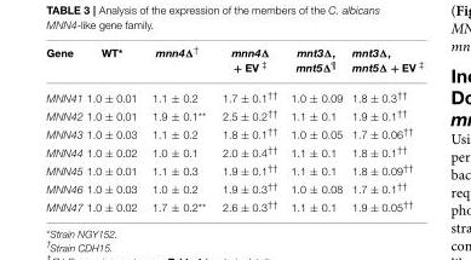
<table><thead><tr><td>Gene</td><td>WT*</td><td>mnn4Δ<sup>†</sup></td><td>mnn4Δ + EV <sup>‡</sup></td><td>mnt3Δ, mnt5Δ<sup>¶</sup></td><td>mnt3Δ, mnt5Δ + EV <sup>‡</sup></td></tr></thead><tbody><tr><td>MNN41</td><td>1.0 ± 0.01</td><td>1.1 ± 0.2</td><td>1.7 ± 0.1<sup>††</sup></td><td>1.0 ± 0.09</td><td>1.8 ± 0.3<sup>††</sup></td></tr><tr><td>MNN42</td><td>1.0 ± 0.01</td><td>1.9 ± 0.1**</td><td>2.5 ± 0.2<sup>††</sup></td><td>1.1 ± 0.1</td><td>1.9 ± 0.1<sup>††</sup></td></tr><tr><td>MNN43</td><td>1.0 ± 0.03</td><td>1.1 ± 0.2</td><td>1.8 ± 0.1<sup>††</sup></td><td>1.0 ± 0.05</td><td>1.7 ± 0.06<sup>††</sup></td></tr><tr><td>MNN44</td><td>1.0 ± 0.02</td><td>1.0 ± 0.1</td><td>2.0 ± 0.4<sup>††</sup></td><td>1.1 ± 0.1</td><td>1.8 ± 0.1<sup>††</sup></td></tr><tr><td>MNN45</td><td>1.0 ± 0.01</td><td>1.1 ± 0.3</td><td>1.9 ± 0.1<sup>††</sup></td><td>1.1 ± 0.1</td><td>1.8 ± 0.09<sup>††</sup></td></tr><tr><td>MNN46</td><td>1.0 ± 0.03</td><td>1.0 ± 0.2</td><td>1.9 ± 0.3<sup>††</sup></td><td>1.0 ± 0.08</td><td>1.7 ± 0.1<sup>††</sup></td></tr><tr><td>MNN47</td><td>1.0 ± 0.02</td><td>1.7 ± 0.2**</td><td>2.6 ± 0.3<sup>††</sup></td><td>1.1 ± 0.1</td><td>1.9 ± 0.05<sup>††</sup></td></tr></tbody></table>